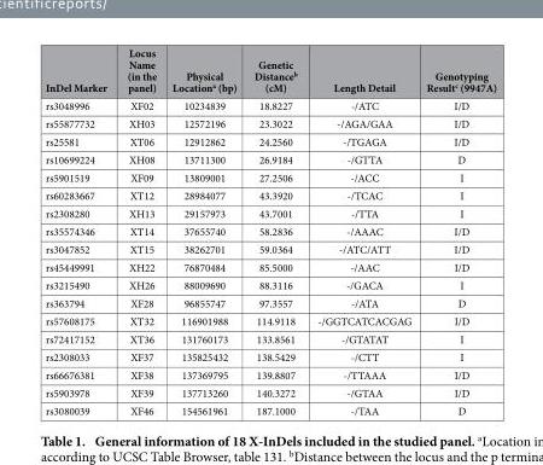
<table><thead><tr><td>InDel Marker</td><td>Locus Name (in the panel)</td><td>Physical Location<sup>a</sup> (bp)</td><td>Genetic Distance<sup>b</sup> (cM)</td><td>Length Detail</td><td>Genotyping Result<sup>c</sup> (9947A)</td></tr></thead><tbody><tr><td>rs3048996</td><td>XF02</td><td>10234839</td><td>18.8227</td><td>-/ATC</td><td>I/D</td></tr><tr><td>rs55877732</td><td>XH03</td><td>12572196</td><td>23.3022</td><td>-/AGA/GAA</td><td>I/D</td></tr><tr><td>rs25581</td><td>XT06</td><td>12912862</td><td>24.2560</td><td>-/TGAGA</td><td>I/D</td></tr><tr><td>rs10699224</td><td>XH08</td><td>13711300</td><td>26.9184</td><td>-/GTTA</td><td>D</td></tr><tr><td>rs5901519</td><td>XF09</td><td>13809001</td><td>27.2506</td><td>-/ACC</td><td>I</td></tr><tr><td>rs60283667</td><td>XT12</td><td>28984077</td><td>43.3920</td><td>-/TCAC</td><td>I</td></tr><tr><td>rs2308280</td><td>XH13</td><td>29157973</td><td>43.7001</td><td>-/TTA</td><td>I</td></tr><tr><td>rs35574346</td><td>XT14</td><td>37655740</td><td>58.2836</td><td>-/AAAC</td><td>I/D</td></tr><tr><td>rs3047852</td><td>XT15</td><td>38262701</td><td>59.0364</td><td>-/ATC/ATT</td><td>I/D</td></tr><tr><td>rs45449991</td><td>XH22</td><td>76870484</td><td>85.5000</td><td>-/AAC</td><td>I/D</td></tr><tr><td>rs3215490</td><td>XH26</td><td>88009690</td><td>88.3116</td><td>-/GACA</td><td>I</td></tr><tr><td>rs363794</td><td>XF28</td><td>96855747</td><td>97.3557</td><td>-/ATA</td><td>D</td></tr><tr><td>rs57608175</td><td>XT32</td><td>116901988</td><td>114.9118</td><td>-/GGTCATCACGAG</td><td>I/D</td></tr><tr><td>rs72417152</td><td>XT36</td><td>131760173</td><td>133.8561</td><td>-/GTATAT</td><td>I</td></tr><tr><td>rs2308033</td><td>XF37</td><td>135825432</td><td>138.5429</td><td>-/CTT</td><td>I</td></tr><tr><td>rs66676381</td><td>XF38</td><td>137369795</td><td>139.8807</td><td>-/TTAAA</td><td>I/D</td></tr><tr><td>rs5903978</td><td>XF39</td><td>137713260</td><td>140.3272</td><td>-/GTAA</td><td>I/D</td></tr><tr><td>rs3080039</td><td>XF46</td><td>154561961</td><td>187.1000</td><td>-/TAA</td><td>D</td></tr></tbody></table>